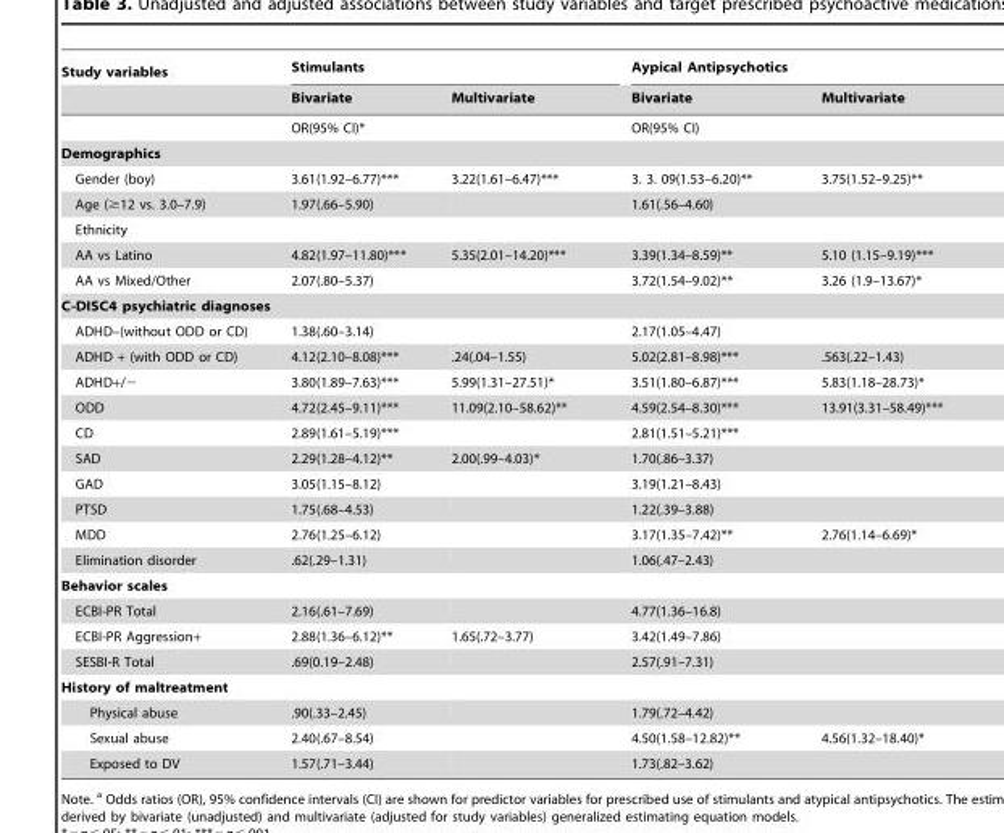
<table><thead><tr><td rowspan="2">Study variables</td><td colspan="2">Stimulants</td><td colspan="2">Aypical Antipsychotics</td></tr><tr><td>Bivariate</td><td>Multivariate</td><td>Bivariate</td><td>Multivariate</td></tr></thead><tbody><tr><td></td><td colspan="2">OR(95% CI)*</td><td colspan="2">OR(95% CI)</td></tr><tr><td colspan="5">Demographics</td></tr><tr><td>Gender (boy)</td><td>3.61(1.92–6.77)***</td><td>3.22(1.61–6.47)***</td><td>3. 3. 09(1.53–6.20)**</td><td>3.75(1.52–9.25)**</td></tr><tr><td>Age (≥12 vs. 3.0–7.9)</td><td>1.97(.66–5.90)</td><td></td><td>1.61(.56–4.60)</td><td></td></tr><tr><td colspan="5">Ethnicity</td></tr><tr><td>AA vs Latino</td><td>4.82(1.97–11.80)***</td><td>5.35(2.01–14.20)***</td><td>3.39(1.34–8.59)**</td><td>5.10 (1.15–9.19)***</td></tr><tr><td>AA vs Mixed/Other</td><td>2.07(.80–5.37)</td><td></td><td>3.72(1.54–9.02)**</td><td>3.26 (1.9–13.67)*</td></tr><tr><td colspan="5">C-DISC4 psychiatric diagnoses</td></tr><tr><td>ADHD–(without ODD or CD)</td><td>1.38(.60–3.14)</td><td></td><td>2.17(1.05–4.47)</td><td></td></tr><tr><td>ADHD + (with ODD or CD)</td><td>4.12(2.10–8.08)***</td><td>.24(.04–1.55)</td><td>5.02(2.81–8.98)***</td><td>.563(.22–1.43)</td></tr><tr><td>ADHD+/−</td><td>3.80(1.89–7.63)***</td><td>5.99(1.31–27.51)*</td><td>3.51(1.80–6.87)***</td><td>5.83(1.18–28.73)*</td></tr><tr><td>ODD</td><td>4.72(2.45–9.11)***</td><td>11.09(2.10–58.62)**</td><td>4.59(2.54–8.30)***</td><td>13.91(3.31–58.49)***</td></tr><tr><td>CD</td><td>2.89(1.61–5.19)***</td><td></td><td>2.81(1.51–5.21)***</td><td></td></tr><tr><td>SAD</td><td>2.29(1.28–4.12)**</td><td>2.00(.99–4.03)*</td><td>1.70(.86–3.37)</td><td></td></tr><tr><td>GAD</td><td>3.05(1.15–8.12)</td><td></td><td>3.19(1.21–8.43)</td><td></td></tr><tr><td>PTSD</td><td>1.75(.68–4.53)</td><td></td><td>1.22(.39–3.88)</td><td></td></tr><tr><td>MDD</td><td>2.76(1.25–6.12)</td><td></td><td>3.17(1.35–7.42)**</td><td>2.76(1.14–6.69)*</td></tr><tr><td>Elimination disorder</td><td>.62(.29–1.31)</td><td></td><td>1.06(.47–2.43)</td><td></td></tr><tr><td colspan="5">Behavior scales</td></tr><tr><td>ECBI-PR Total</td><td>2.16(.61–7.69)</td><td></td><td>4.77(1.36–16.8)</td><td></td></tr><tr><td>ECBI-PR Aggression+</td><td>2.88(1.36–6.12)**</td><td>1.65(.72–3.77)</td><td>3.42(1.49–7.86)</td><td></td></tr><tr><td>SESBI-R Total</td><td>.69(0.19–2.48)</td><td></td><td>2.57(.91–7.31)</td><td></td></tr><tr><td colspan="5">History of maltreatment</td></tr><tr><td>Physical abuse</td><td>.90(.33–2.45)</td><td></td><td>1.79(.72–4.42)</td><td></td></tr><tr><td>Sexual abuse</td><td>2.40(.67–8.54)</td><td></td><td>4.50(1.58–12.82)**</td><td>4.56(1.32–18.40)*</td></tr><tr><td>Exposed to DV</td><td>1.57(.71–3.44)</td><td></td><td>1.73(.82–3.62)</td><td></td></tr></tbody></table>